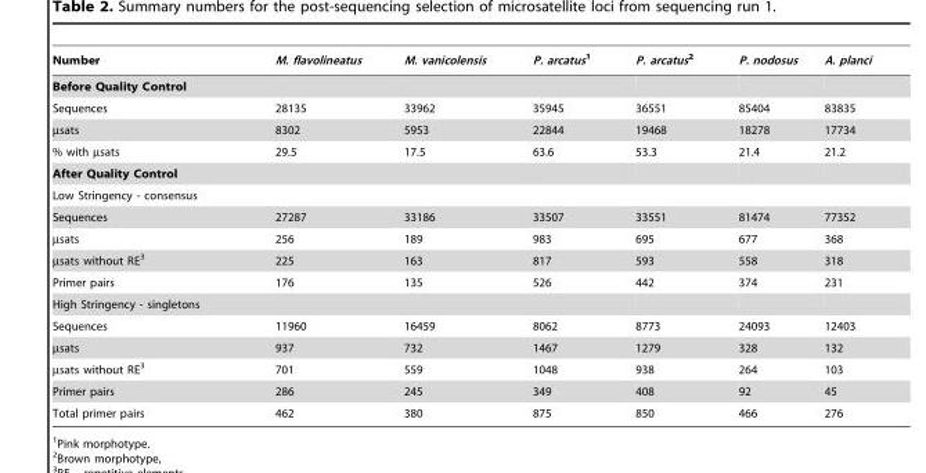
<table><thead><tr><td>Number</td><td>M. flavolineatus</td><td>M. vanicolensis</td><td>P. arcatus1</td><td>P. arcatus2</td><td>P. nodosus</td><td>A. planci</td></tr></thead><tbody><tr><td colspan="7">Before Quality Control</td></tr><tr><td>Sequences</td><td>28135</td><td>33962</td><td>35945</td><td>36551</td><td>85404</td><td>83835</td></tr><tr><td>µsats</td><td>8302</td><td>5953</td><td>22844</td><td>19468</td><td>18278</td><td>17734</td></tr><tr><td>% with µsats</td><td>29.5</td><td>17.5</td><td>63.6</td><td>53.3</td><td>21.4</td><td>21.2</td></tr><tr><td colspan="7">After Quality Control</td></tr><tr><td colspan="7">Low Stringency - consensus</td></tr><tr><td>Sequences</td><td>27287</td><td>33186</td><td>33507</td><td>33551</td><td>81474</td><td>77352</td></tr><tr><td>µsats</td><td>256</td><td>189</td><td>983</td><td>695</td><td>677</td><td>368</td></tr><tr><td>µsats without RE<sup>3</sup></td><td>225</td><td>163</td><td>817</td><td>593</td><td>558</td><td>318</td></tr><tr><td>Primer pairs</td><td>176</td><td>135</td><td>526</td><td>442</td><td>374</td><td>231</td></tr><tr><td colspan="7">High Stringency - singletons</td></tr><tr><td>Sequences</td><td>11960</td><td>16459</td><td>8062</td><td>8773</td><td>24093</td><td>12403</td></tr><tr><td>µsats</td><td>937</td><td>732</td><td>1467</td><td>1279</td><td>328</td><td>132</td></tr><tr><td>µsats without RE<sup>3</sup></td><td>701</td><td>559</td><td>1048</td><td>938</td><td>264</td><td>103</td></tr><tr><td>Primer pairs</td><td>286</td><td>245</td><td>349</td><td>408</td><td>92</td><td>45</td></tr><tr><td>Total primer pairs</td><td>462</td><td>380</td><td>875</td><td>850</td><td>466</td><td>276</td></tr></tbody></table>